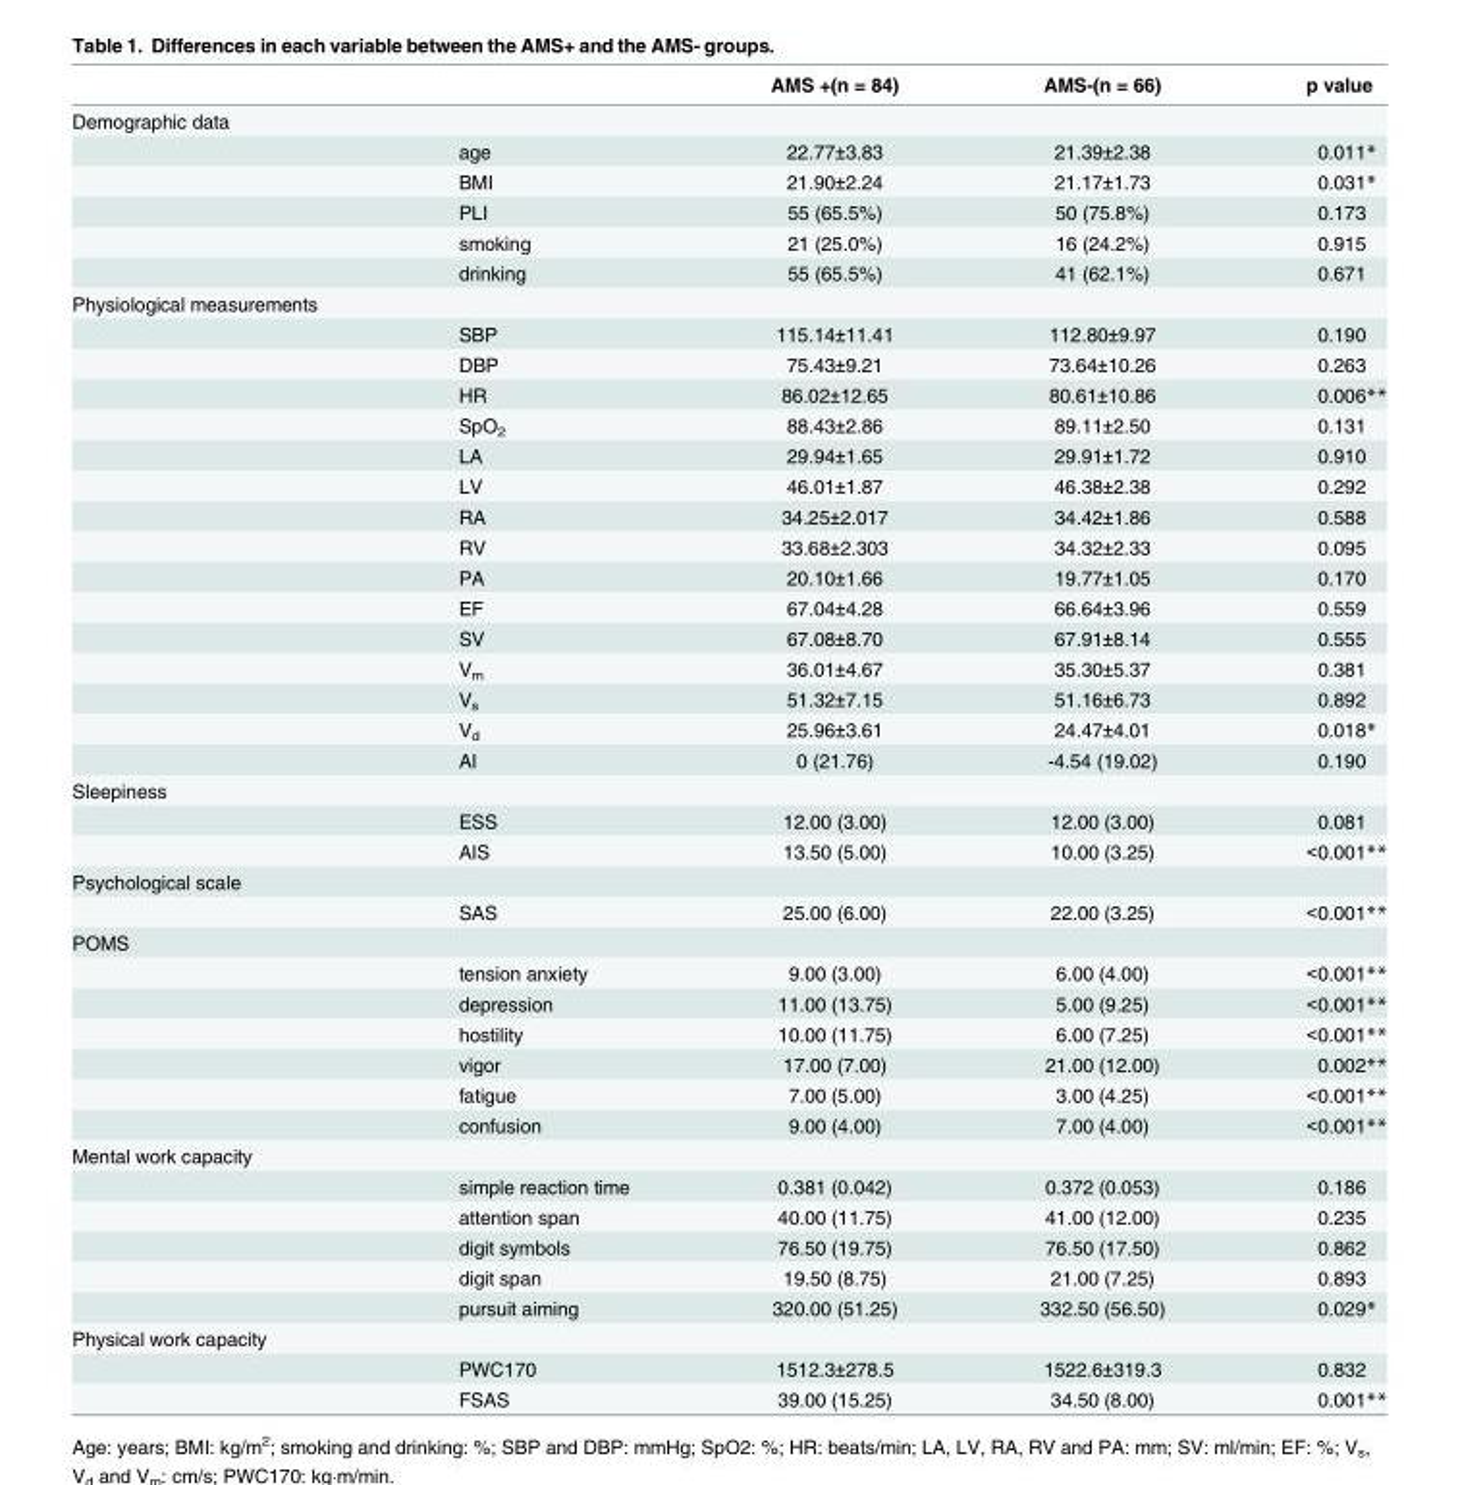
<table><thead><tr><td></td><td></td><td>AMS +(n = 84)</td><td>AMS-(n = 66)</td><td>p value</td></tr></thead><tbody><tr><td colspan="5">Demographic data</td></tr><tr><td></td><td>age</td><td>22.77±3.83</td><td>21.39±2.38</td><td>0.011*</td></tr><tr><td></td><td>BMI</td><td>21.90±2.24</td><td>21.17±1.73</td><td>0.031*</td></tr><tr><td></td><td>PLI</td><td>55 (65.5%)</td><td>50 (75.8%)</td><td>0.173</td></tr><tr><td></td><td>smoking</td><td>21 (25.0%)</td><td>16 (24.2%)</td><td>0.915</td></tr><tr><td></td><td>drinking</td><td>55 (65.5%)</td><td>41 (62.1%)</td><td>0.671</td></tr><tr><td colspan="5">Physiological measurements</td></tr><tr><td></td><td>SBP</td><td>115.14±11.41</td><td>112.80±9.97</td><td>0.190</td></tr><tr><td></td><td>DBP</td><td>75.43±9.21</td><td>73.64±10.26</td><td>0.263</td></tr><tr><td></td><td>HR</td><td>86.02±12.65</td><td>80.61±10.86</td><td>0.006**</td></tr><tr><td></td><td>SpO<sub>2</sub></td><td>88.43±2.86</td><td>89.11±2.50</td><td>0.131</td></tr><tr><td></td><td>LA</td><td>29.94±1.65</td><td>29.91±1.72</td><td>0.910</td></tr><tr><td></td><td>LV</td><td>46.01±1.87</td><td>46.38±2.38</td><td>0.292</td></tr><tr><td></td><td>RA</td><td>34.25±2.017</td><td>34.42±1.86</td><td>0.588</td></tr><tr><td></td><td>RV</td><td>33.68±2.303</td><td>34.32±2.33</td><td>0.095</td></tr><tr><td></td><td>PA</td><td>20.10±1.66</td><td>19.77±1.05</td><td>0.170</td></tr><tr><td></td><td>EF</td><td>67.04±4.28</td><td>66.64±3.96</td><td>0.559</td></tr><tr><td></td><td>SV</td><td>67.08±8.70</td><td>67.91±8.14</td><td>0.555</td></tr><tr><td></td><td>V<sub>m</sub></td><td>36.01±4.67</td><td>35.30±5.37</td><td>0.381</td></tr><tr><td></td><td>V<sub>s</sub></td><td>51.32±7.15</td><td>51.16±6.73</td><td>0.892</td></tr><tr><td></td><td>V<sub>d</sub></td><td>25.96±3.61</td><td>24.47±4.01</td><td>0.018*</td></tr><tr><td></td><td>AI</td><td>0 (21.76)</td><td>-4.54 (19.02)</td><td>0.190</td></tr><tr><td colspan="5">Sleepiness</td></tr><tr><td></td><td>ESS</td><td>12.00 (3.00)</td><td>12.00 (3.00)</td><td>0.081</td></tr><tr><td></td><td>AIS</td><td>13.50 (5.00)</td><td>10.00 (3.25)</td><td>&lt;0.001**</td></tr><tr><td colspan="5">Psychological scale</td></tr><tr><td></td><td>SAS</td><td>25.00 (6.00)</td><td>22.00 (3.25)</td><td>&lt;0.001**</td></tr><tr><td colspan="5">POMS</td></tr><tr><td></td><td>tension anxiety</td><td>9.00 (3.00)</td><td>6.00 (4.00)</td><td>&lt;0.001**</td></tr><tr><td></td><td>depression</td><td>11.00 (13.75)</td><td>5.00 (9.25)</td><td>&lt;0.001**</td></tr><tr><td></td><td>hostility</td><td>10.00 (11.75)</td><td>6.00 (7.25)</td><td>&lt;0.001**</td></tr><tr><td></td><td>vigor</td><td>17.00 (7.00)</td><td>21.00 (12.00)</td><td>0.002**</td></tr><tr><td></td><td>fatigue</td><td>7.00 (5.00)</td><td>3.00 (4.25)</td><td>&lt;0.001**</td></tr><tr><td></td><td>confusion</td><td>9.00 (4.00)</td><td>7.00 (4.00)</td><td>&lt;0.001**</td></tr><tr><td colspan="5">Mental work capacity</td></tr><tr><td></td><td>simple reaction time</td><td>0.381 (0.042)</td><td>0.372 (0.053)</td><td>0.186</td></tr><tr><td></td><td>attention span</td><td>40.00 (11.75)</td><td>41.00 (12.00)</td><td>0.235</td></tr><tr><td></td><td>digit symbols</td><td>76.50 (19.75)</td><td>76.50 (17.50)</td><td>0.862</td></tr><tr><td></td><td>digit span</td><td>19.50 (8.75)</td><td>21.00 (7.25)</td><td>0.893</td></tr><tr><td></td><td>pursuit aiming</td><td>320.00 (51.25)</td><td>332.50 (56.50)</td><td>0.029*</td></tr><tr><td colspan="5">Physical work capacity</td></tr><tr><td></td><td>PWC170</td><td>1512.3±278.5</td><td>1522.6±319.3</td><td>0.832</td></tr><tr><td></td><td>FSAS</td><td>39.00 (15.25)</td><td>34.50 (8.00)</td><td>0.001**</td></tr></tbody></table>